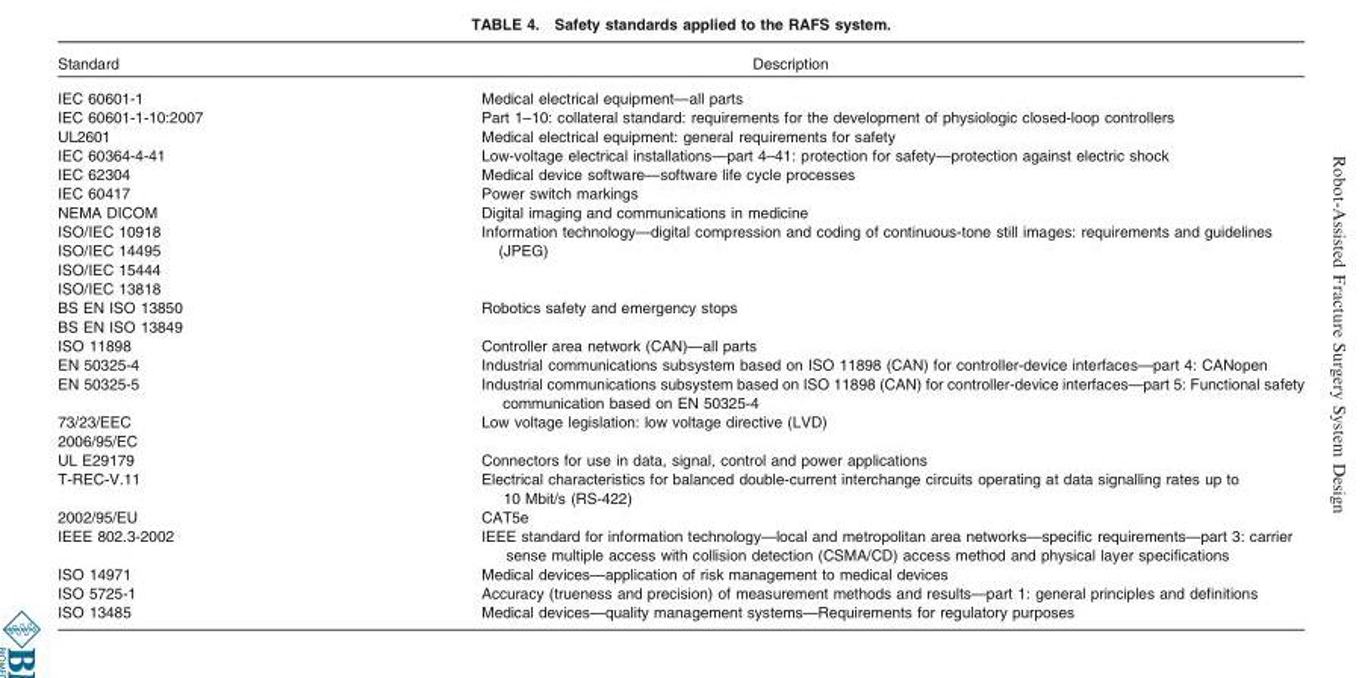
<table><thead><tr><td>Standard</td><td>Description</td></tr></thead><tbody><tr><td>IEC 60601-1</td><td>Medical electrical equipment—all parts</td></tr><tr><td>IEC 60601-1-10:2007</td><td>Part 1–10: collateral standard: requirements for the development of physiologic closed-loop controllers</td></tr><tr><td>UL2601</td><td>Medical electrical equipment: general requirements for safety</td></tr><tr><td>IEC 60364-4-41</td><td>Low-voltage electrical installations—part 4–41: protection for safety—protection against electric shock</td></tr><tr><td>IEC 62304</td><td>Medical device software—software life cycle processes</td></tr><tr><td>IEC 60417</td><td>Power switch markings</td></tr><tr><td>NEMA DICOM</td><td>Digital imaging and communications in medicine</td></tr><tr><td>ISO/IEC 10918 ISO/IEC 14495 ISO/IEC 15444 ISO/IEC 13818</td><td>Information technology—digital compression and coding of continuous-tone still images: requirements and guidelines (JPEG)</td></tr><tr><td>BS EN ISO 13850 BS EN ISO 13849</td><td>Robotics safety and emergency stops</td></tr><tr><td>ISO 11898</td><td>Controller area network (CAN)—all parts</td></tr><tr><td>EN 50325-4</td><td>Industrial communications subsystem based on ISO 11898 (CAN) for controller-device interfaces—part 4: CANopen</td></tr><tr><td>EN 50325-5</td><td>Industrial communications subsystem based on ISO 11898 (CAN) for controller-device interfaces—part 5: Functional safety communication based on EN 50325-4</td></tr><tr><td>73/23/EEC 2006/95/EC</td><td>Low voltage legislation: low voltage directive (LVD)</td></tr><tr><td>UL E29179</td><td>Connectors for use in data, signal, control and power applications</td></tr><tr><td>T-REC-V.11</td><td>Electrical characteristics for balanced double-current interchange circuits operating at data signalling rates up to 10 Mbit/s (RS-422)</td></tr><tr><td>2002/95/EU</td><td>CAT5e</td></tr><tr><td>IEEE 802.3-2002</td><td>IEEE standard for information technology—local and metropolitan area networks—specific requirements—part 3: carrier sense multiple access with collision detection (CSMA/CD) access method and physical layer specifications</td></tr><tr><td>ISO 14971</td><td>Medical devices—application of risk management to medical devices</td></tr><tr><td>ISO 5725-1</td><td>Accuracy (trueness and precision) of measurement methods and results—part 1: general principles and definitions</td></tr><tr><td>ISO 13485</td><td>Medical devices—quality management systems—Requirements for regulatory purposes</td></tr></tbody></table>